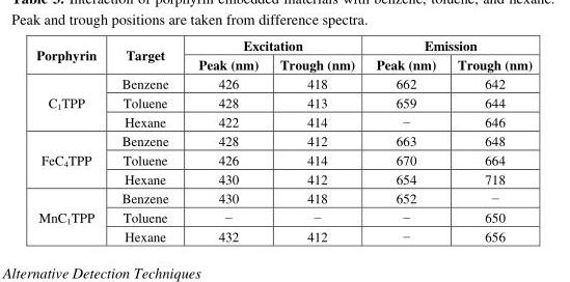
<table><thead><tr><td rowspan="2">Porphyrin</td><td rowspan="2">Target</td><td colspan="2">Excitation</td><td colspan="2">Emission</td></tr><tr><td>Peak (nm)</td><td>Trough (nm)</td><td>Peak (nm)</td><td>Trough (nm)</td></tr></thead><tbody><tr><td rowspan="3">C<sub>1</sub>TPP</td><td>Benzene</td><td>426</td><td>418</td><td>662</td><td>642</td></tr><tr><td>Toluene</td><td>428</td><td>413</td><td>659</td><td>644</td></tr><tr><td>Hexane</td><td>422</td><td>414</td><td>−</td><td>646</td></tr><tr><td rowspan="3">FeC<sub>4</sub>TPP</td><td>Benzene</td><td>428</td><td>412</td><td>663</td><td>648</td></tr><tr><td>Toluene</td><td>426</td><td>414</td><td>670</td><td>664</td></tr><tr><td>Hexane</td><td>430</td><td>412</td><td>654</td><td>718</td></tr><tr><td rowspan="3">MnC<sub>1</sub>TPP</td><td>Benzene</td><td>430</td><td>418</td><td>652</td><td>−</td></tr><tr><td>Toluene</td><td>−</td><td>−</td><td>−</td><td>650</td></tr><tr><td>Hexane</td><td>432</td><td>412</td><td>−</td><td>656</td></tr></tbody></table>